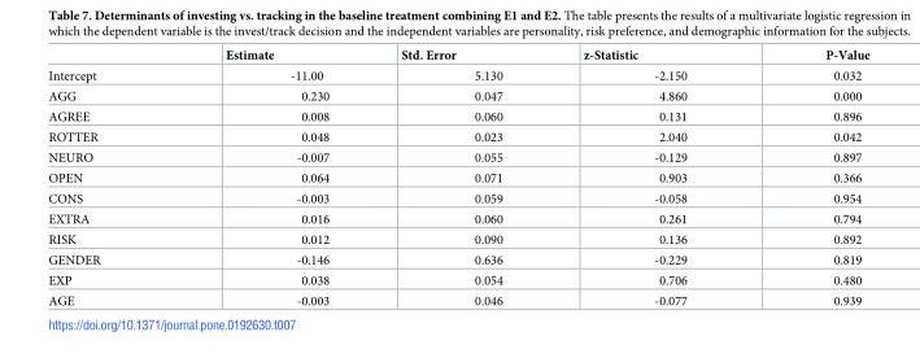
<table><thead><tr><td></td><td>Estimate</td><td>Std. Error</td><td>z-Statistic</td><td>P-Value</td></tr></thead><tbody><tr><td>Intercept</td><td>-11.00</td><td>5.130</td><td>-2.150</td><td>0.032</td></tr><tr><td>AGG</td><td>0.230</td><td>0.047</td><td>4.860</td><td>0.000</td></tr><tr><td>AGREE</td><td>0.008</td><td>0.060</td><td>0.131</td><td>0.896</td></tr><tr><td>ROTTER</td><td>0.048</td><td>0.023</td><td>2.040</td><td>0.042</td></tr><tr><td>NEURO</td><td>-0.007</td><td>0.055</td><td>-0.129</td><td>0.897</td></tr><tr><td>OPEN</td><td>0.064</td><td>0.071</td><td>0.903</td><td>0.366</td></tr><tr><td>CONS</td><td>-0.003</td><td>0.059</td><td>-0.058</td><td>0.954</td></tr><tr><td>EXTRA</td><td>0.016</td><td>0.060</td><td>0.261</td><td>0.794</td></tr><tr><td>RISK</td><td>0.012</td><td>0.090</td><td>0.136</td><td>0.892</td></tr><tr><td>GENDER</td><td>-0.146</td><td>0.636</td><td>-0.229</td><td>0.819</td></tr><tr><td>EXP</td><td>0.038</td><td>0.054</td><td>0.706</td><td>0.480</td></tr><tr><td>AGE</td><td>-0.003</td><td>0.046</td><td>-0.077</td><td>0.939</td></tr></tbody></table>